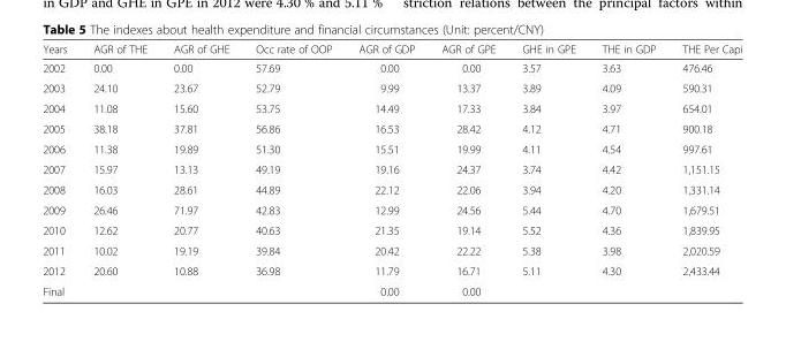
<table><thead><tr><td>Years</td><td>AGR of THE</td><td>AGR of GHE</td><td>Occ rate of OOP</td><td>AGR of GDP</td><td>AGR of GPE</td><td>GHE in GPE</td><td>THE in GDP</td><td>THE Per Capi</td></tr></thead><tbody><tr><td>2002</td><td>0.00</td><td>0.00</td><td>57.69</td><td>0.00</td><td>0.00</td><td>3.57</td><td>3.63</td><td>476.46</td></tr><tr><td>2003</td><td>24.10</td><td>23.67</td><td>52.79</td><td>9.99</td><td>13.37</td><td>3.89</td><td>4.09</td><td>590.31</td></tr><tr><td>2004</td><td>11.08</td><td>15.60</td><td>53.75</td><td>14.49</td><td>17.33</td><td>3.84</td><td>3.97</td><td>654.01</td></tr><tr><td>2005</td><td>38.18</td><td>37.81</td><td>56.86</td><td>16.53</td><td>28.42</td><td>4.12</td><td>4.71</td><td>900.18</td></tr><tr><td>2006</td><td>11.38</td><td>19.89</td><td>51.30</td><td>15.51</td><td>19.99</td><td>4.11</td><td>4.54</td><td>997.61</td></tr><tr><td>2007</td><td>15.97</td><td>13.13</td><td>49.19</td><td>19.16</td><td>24.37</td><td>3.74</td><td>4.42</td><td>1,151.15</td></tr><tr><td>2008</td><td>16.03</td><td>28.61</td><td>44.89</td><td>22.12</td><td>22.06</td><td>3.94</td><td>4.20</td><td>1,331.14</td></tr><tr><td>2009</td><td>26.46</td><td>71.97</td><td>42.83</td><td>12.99</td><td>24.56</td><td>5.44</td><td>4.70</td><td>1,679.51</td></tr><tr><td>2010</td><td>12.62</td><td>20.77</td><td>40.63</td><td>21.35</td><td>19.14</td><td>5.52</td><td>4.36</td><td>1,839.95</td></tr><tr><td>2011</td><td>10.02</td><td>19.19</td><td>39.84</td><td>20.42</td><td>22.22</td><td>5.38</td><td>3.98</td><td>2,020.59</td></tr><tr><td>2012</td><td>20.60</td><td>10.88</td><td>36.98</td><td>11.79</td><td>16.71</td><td>5.11</td><td>4.30</td><td>2,433.44</td></tr><tr><td>Final</td><td></td><td></td><td></td><td>0.00</td><td>0.00</td><td></td><td></td><td></td></tr></tbody></table>